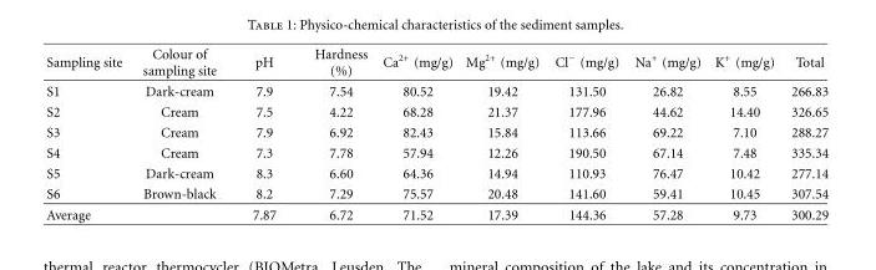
<table><thead><tr><td>Sampling site</td><td>Colour of sampling site</td><td>pH</td><td>Hardness (%)</td><td>Ca<sup>2+</sup> (mg/g)</td><td>Mg<sup>2+</sup> (mg/g)</td><td>Cl<sup>−</sup> (mg/g)</td><td>Na<sup>+</sup> (mg/g)</td><td>K<sup>+</sup> (mg/g)</td><td>Total</td></tr></thead><tbody><tr><td>S1</td><td>Dark-cream</td><td>7.9</td><td>7.54</td><td>80.52</td><td>19.42</td><td>131.50</td><td>26.82</td><td>8.55</td><td>266.83</td></tr><tr><td>S2</td><td>Cream</td><td>7.5</td><td>4.22</td><td>68.28</td><td>21.37</td><td>177.96</td><td>44.62</td><td>14.40</td><td>326.65</td></tr><tr><td>S3</td><td>Cream</td><td>7.9</td><td>6.92</td><td>82.43</td><td>15.84</td><td>113.66</td><td>69.22</td><td>7.10</td><td>288.27</td></tr><tr><td>S4</td><td>Cream</td><td>7.3</td><td>7.78</td><td>57.94</td><td>12.26</td><td>190.50</td><td>67.14</td><td>7.48</td><td>335.34</td></tr><tr><td>S5</td><td>Dark-cream</td><td>8.3</td><td>6.60</td><td>64.36</td><td>14.94</td><td>110.93</td><td>76.47</td><td>10.42</td><td>277.14</td></tr><tr><td>S6</td><td>Brown-black</td><td>8.2</td><td>7.29</td><td>75.57</td><td>20.48</td><td>141.60</td><td>59.41</td><td>10.45</td><td>307.54</td></tr><tr><td>Average</td><td></td><td>7.87</td><td>6.72</td><td>71.52</td><td>17.39</td><td>144.36</td><td>57.28</td><td>9.73</td><td>300.29</td></tr></tbody></table>